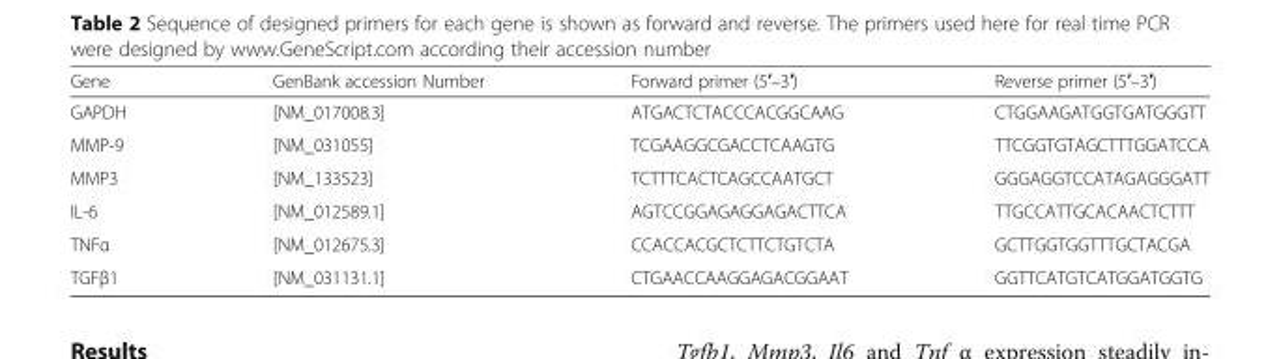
<table><thead><tr><td>Gene</td><td>GenBank accession Number</td><td>Forward primer (5′–3′)</td><td>Reverse primer (5′–3′)</td></tr></thead><tbody><tr><td>GAPDH</td><td>[NM_017008.3]</td><td>ATGACTCTACCCACGGCAAG</td><td>CTGGAAGATGGTGATGGGTT</td></tr><tr><td>MMP-9</td><td>[NM_031055]</td><td>TCGAAGGCGACCTCAAGTG</td><td>TTCGGTGTAGCTTTGGATCCA</td></tr><tr><td>MMP3</td><td>[NM_133523]</td><td>TCTTTCACTCAGCCAATGCT</td><td>GGGAGGTCCATAGAGGGATT</td></tr><tr><td>IL-6</td><td>[NM_012589.1]</td><td>AGTCCGGAGAGGAGACTTCA</td><td>TTGCCATTGCACAACTCTTT</td></tr><tr><td>TNFα</td><td>[NM_012675.3]</td><td>CCACCACGCTCTTCTGTCTA</td><td>GCTTGGTGGTTTGCTACGA</td></tr><tr><td>TGFβ1</td><td>[NM_031131.1]</td><td>CTGAACCAAGGAGACGGAAT</td><td>GGTTCATGTCATGGATGGTG</td></tr></tbody></table>